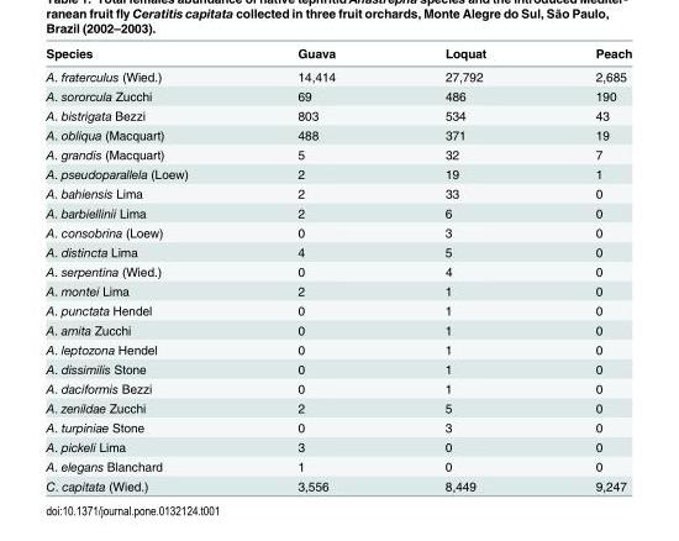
<table><thead><tr><td>Species</td><td>Guava</td><td>Loquat</td><td>Peach</td></tr></thead><tbody><tr><td>A. fraterculus (Wied.)</td><td>14,414</td><td>27,792</td><td>2,685</td></tr><tr><td>A. sororcula Zucchi</td><td>69</td><td>486</td><td>190</td></tr><tr><td>A. bistrigata Bezzi</td><td>803</td><td>534</td><td>43</td></tr><tr><td>A. obliqua (Macquart)</td><td>488</td><td>371</td><td>19</td></tr><tr><td>A. grandis (Macquart)</td><td>5</td><td>32</td><td>7</td></tr><tr><td>A. pseudoparallela (Loew)</td><td>2</td><td>19</td><td>1</td></tr><tr><td>A. bahiensis Lima</td><td>2</td><td>33</td><td>0</td></tr><tr><td>A. barbiellinii Lima</td><td>2</td><td>6</td><td>0</td></tr><tr><td>A. consobrina (Loew)</td><td>0</td><td>3</td><td>0</td></tr><tr><td>A. distincta Lima</td><td>4</td><td>5</td><td>0</td></tr><tr><td>A. serpentina (Wied.)</td><td>0</td><td>4</td><td>0</td></tr><tr><td>A. montei Lima</td><td>2</td><td>1</td><td>0</td></tr><tr><td>A. punctata Hendel</td><td>0</td><td>1</td><td>0</td></tr><tr><td>A. amita Zucchi</td><td>0</td><td>1</td><td>0</td></tr><tr><td>A. leptozona Hendel</td><td>0</td><td>1</td><td>0</td></tr><tr><td>A. dissimilis Stone</td><td>0</td><td>1</td><td>0</td></tr><tr><td>A. daciformis Bezzi</td><td>0</td><td>1</td><td>0</td></tr><tr><td>A. zenildae Zucchi</td><td>2</td><td>5</td><td>0</td></tr><tr><td>A. turpiniae Stone</td><td>0</td><td>3</td><td>0</td></tr><tr><td>A. pickeli Lima</td><td>3</td><td>0</td><td>0</td></tr><tr><td>A. elegans Blanchard</td><td>1</td><td>0</td><td>0</td></tr><tr><td>C. capitata (Wied.)</td><td>3,556</td><td>8,449</td><td>9,247</td></tr></tbody></table>